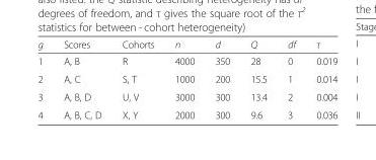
<table><thead><tr><td>g</td><td>Scores</td><td>Cohorts</td><td>n</td><td>d</td><td>Q</td><td>df</td><td>τ</td></tr></thead><tbody><tr><td>1</td><td>A, B</td><td>R</td><td>4000</td><td>350</td><td>28</td><td>0</td><td>0.019</td></tr><tr><td>2</td><td>A, C</td><td>S, T</td><td>1000</td><td>200</td><td>15.5</td><td>1</td><td>0.014</td></tr><tr><td>3</td><td>A, B, D</td><td>U, V</td><td>3000</td><td>300</td><td>13.4</td><td>2</td><td>0.004</td></tr><tr><td>4</td><td>A, B, C, D</td><td>X, Y</td><td>2000</td><td>300</td><td>9.6</td><td>3</td><td>0.036</td></tr></tbody></table>